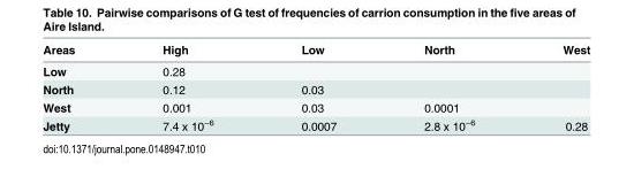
<table><thead><tr><td>Areas</td><td>High</td><td>Low</td><td>North</td><td>West</td></tr></thead><tbody><tr><td>Low</td><td>0.28</td><td></td><td></td><td></td></tr><tr><td>North</td><td>0.12</td><td>0.03</td><td></td><td></td></tr><tr><td>West</td><td>0.001</td><td>0.03</td><td>0.0001</td><td></td></tr><tr><td>Jetty</td><td>7.4 x 10<sup>−6</sup></td><td>0.0007</td><td>2.8 x 10<sup>−6</sup></td><td>0.28</td></tr></tbody></table>